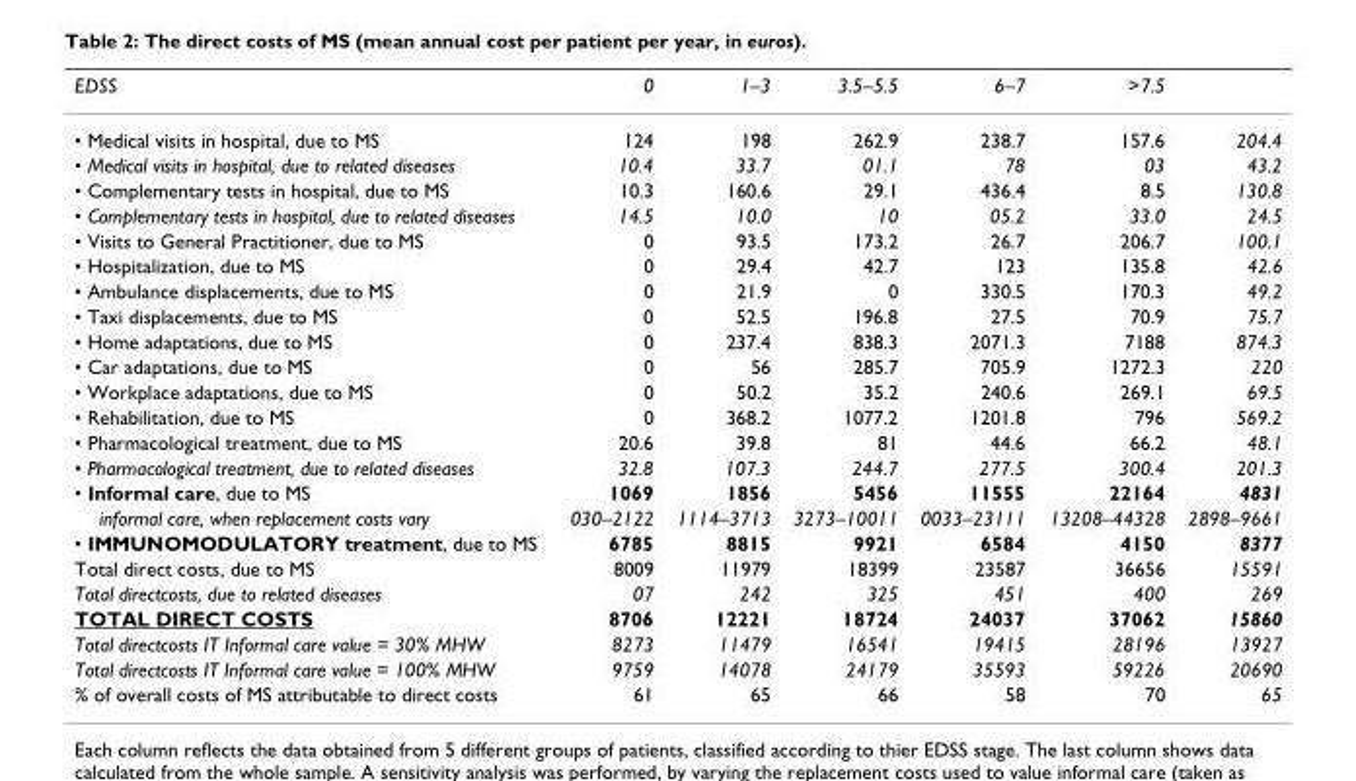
<table><thead><tr><td>EDSS</td><td>0</td><td>1–3</td><td>3.5–5.5</td><td>6–7</td><td>&gt;7.5</td><td></td></tr></thead><tbody><tr><td>• Medical visits in hospital, due to MS</td><td>124</td><td>198</td><td>262.9</td><td>238.7</td><td>157.6</td><td>204.4</td></tr><tr><td>• Medical visits in hospital, due to related diseases</td><td>10.4</td><td>33.7</td><td>01.1</td><td>78</td><td>03</td><td>43.2</td></tr><tr><td>• Complementary tests in hospital, due to MS</td><td>10.3</td><td>160.6</td><td>29.1</td><td>436.4</td><td>8.5</td><td>130.8</td></tr><tr><td>• Complementary tests in hospital, due to related diseases</td><td>14.5</td><td>10.0</td><td>10</td><td>05.2</td><td>33.0</td><td>24.5</td></tr><tr><td>• Visits to General Practitioner, due to MS</td><td>0</td><td>93.5</td><td>173.2</td><td>26.7</td><td>206.7</td><td>100.1</td></tr><tr><td>• Hospitalization, due to MS</td><td>0</td><td>29.4</td><td>42.7</td><td>123</td><td>135.8</td><td>42.6</td></tr><tr><td>• Ambulance displacements, due to MS</td><td>0</td><td>21.9</td><td>0</td><td>330.5</td><td>170.3</td><td>49.2</td></tr><tr><td>• Taxi displacements, due to MS</td><td>0</td><td>52.5</td><td>196.8</td><td>27.5</td><td>70.9</td><td>75.7</td></tr><tr><td>• Home adaptations, due to MS</td><td>0</td><td>237.4</td><td>838.3</td><td>2071.3</td><td>7188</td><td>874.3</td></tr><tr><td>• Car adaptations, due to MS</td><td>0</td><td>56</td><td>285.7</td><td>705.9</td><td>1272.3</td><td>220</td></tr><tr><td>• Workplace adaptations, due to MS</td><td>0</td><td>50.2</td><td>35.2</td><td>240.6</td><td>269.1</td><td>69.5</td></tr><tr><td>• Rehabilitation, due to MS</td><td>0</td><td>368.2</td><td>1077.2</td><td>1201.8</td><td>796</td><td>569.2</td></tr><tr><td>• Pharmacological treatment, due to MS</td><td>20.6</td><td>39.8</td><td>81</td><td>44.6</td><td>66.2</td><td>48.1</td></tr><tr><td>• Pharmacological treatment, due to related diseases</td><td>32.8</td><td>107.3</td><td>244.7</td><td>277.5</td><td>300.4</td><td>201.3</td></tr><tr><td>• Informal care, due to MS</td><td>1069</td><td>1856</td><td>5456</td><td>11555</td><td>22164</td><td>4831</td></tr><tr><td>informal care, when replacement costs vary</td><td>030–2122</td><td>1114–3713</td><td>3273–10011</td><td>0033–23111</td><td>13208–44328</td><td>2898–9661</td></tr><tr><td>• IMMUNOMODULATORY treatment, due to MS</td><td>6785</td><td>8815</td><td>9921</td><td>6584</td><td>4150</td><td>8377</td></tr><tr><td>Total direct costs, due to MS</td><td>8009</td><td>11979</td><td>18399</td><td>23587</td><td>36656</td><td>15591</td></tr><tr><td>Total directcosts, due to related diseases</td><td>07</td><td>242</td><td>325</td><td>451</td><td>400</td><td>269</td></tr><tr><td>TOTAL DIRECT COSTS</td><td>8706</td><td>12221</td><td>18724</td><td>24037</td><td>37062</td><td>15860</td></tr><tr><td>Total directcosts IT Informal care value = 30% MHW</td><td>8273</td><td>11479</td><td>16541</td><td>19415</td><td>28196</td><td>13927</td></tr><tr><td>Total directcosts IT Informal care value = 100% MHW</td><td>9759</td><td>14078</td><td>24179</td><td>35593</td><td>59226</td><td>20690</td></tr><tr><td>% of overall costs of MS attributable to direct costs</td><td>61</td><td>65</td><td>66</td><td>58</td><td>70</td><td>65</td></tr></tbody></table>